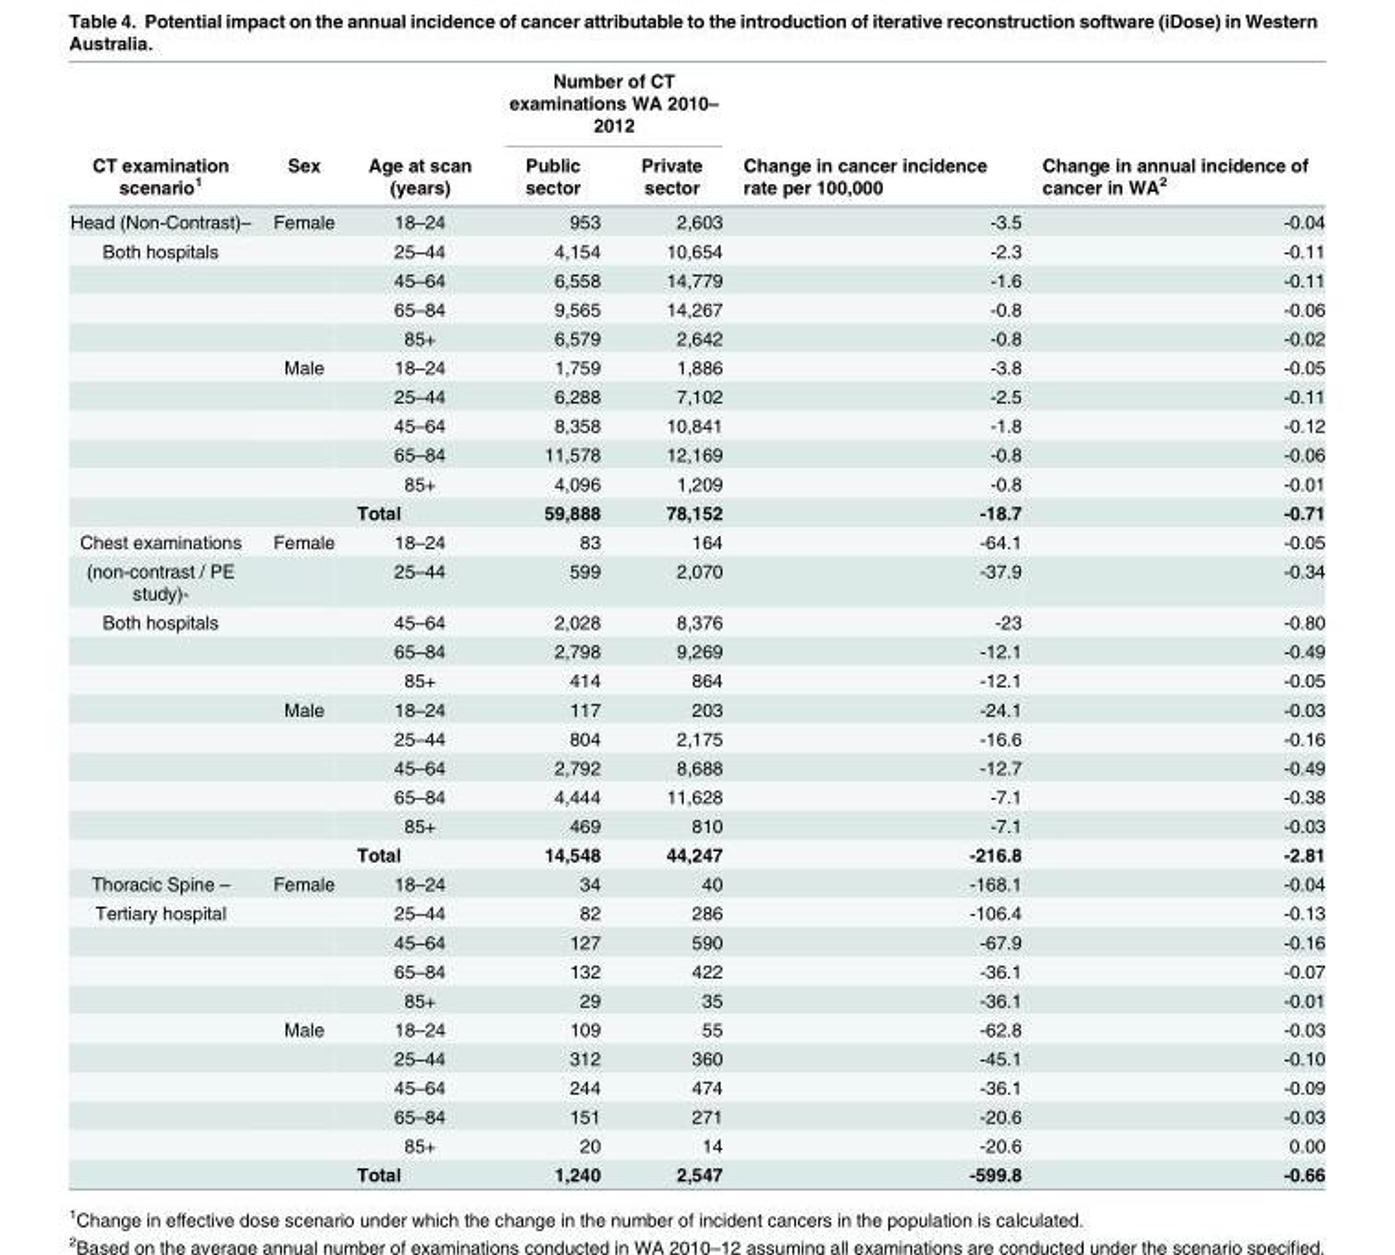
<table><thead><tr><td rowspan="2">CT examination scenario<sup>1</sup></td><td rowspan="2">Sex</td><td rowspan="2">Age at scan (years)</td><td colspan="2">Number of CT examinations WA 2010– 2012</td><td rowspan="2">Change in cancer incidence rate per 100,000</td><td rowspan="2">Change in annual incidence of cancer in WA<sup>2</sup></td></tr><tr><td>Public sector</td><td>Private sector</td></tr></thead><tbody><tr><td>Head (Non-Contrast)–</td><td>Female</td><td>18–24</td><td>953</td><td>2,603</td><td>-3.5</td><td>-0.04</td></tr><tr><td rowspan="10">Both hospitals</td><td></td><td>25–44</td><td>4,154</td><td>10,654</td><td>-2.3</td><td>-0.11</td></tr><tr><td></td><td>45–64</td><td>6,558</td><td>14,779</td><td>-1.6</td><td>-0.11</td></tr><tr><td></td><td>65–84</td><td>9,565</td><td>14,267</td><td>-0.8</td><td>-0.06</td></tr><tr><td></td><td>85+</td><td>6,579</td><td>2,642</td><td>-0.8</td><td>-0.02</td></tr><tr><td>Male</td><td>18–24</td><td>1,759</td><td>1,886</td><td>-3.8</td><td>-0.05</td></tr><tr><td></td><td>25–44</td><td>6,288</td><td>7,102</td><td>-2.5</td><td>-0.11</td></tr><tr><td></td><td>45–64</td><td>8,358</td><td>10,841</td><td>-1.8</td><td>-0.12</td></tr><tr><td></td><td>65–84</td><td>11,578</td><td>12,169</td><td>-0.8</td><td>-0.06</td></tr><tr><td></td><td>85+</td><td>4,096</td><td>1,209</td><td>-0.8</td><td>-0.01</td></tr><tr><td colspan="2">Total</td><td>59,888</td><td>78,152</td><td>-18.7</td><td>-0.71</td></tr><tr><td>Chest examinations</td><td>Female</td><td>18–24</td><td>83</td><td>164</td><td>-64.1</td><td>-0.05</td></tr><tr><td>(non-contrast / PE study)-</td><td></td><td>25–44</td><td>599</td><td>2,070</td><td>-37.9</td><td>-0.34</td></tr><tr><td rowspan="9">Both hospitals</td><td></td><td>45–64</td><td>2,028</td><td>8,376</td><td>-23</td><td>-0.80</td></tr><tr><td></td><td>65–84</td><td>2,798</td><td>9,269</td><td>-12.1</td><td>-0.49</td></tr><tr><td></td><td>85+</td><td>414</td><td>864</td><td>-12.1</td><td>-0.05</td></tr><tr><td>Male</td><td>18–24</td><td>117</td><td>203</td><td>-24.1</td><td>-0.03</td></tr><tr><td></td><td>25–44</td><td>804</td><td>2,175</td><td>-16.6</td><td>-0.16</td></tr><tr><td></td><td>45–64</td><td>2,792</td><td>8,688</td><td>-12.7</td><td>-0.49</td></tr><tr><td></td><td>65–84</td><td>4,444</td><td>11,628</td><td>-7.1</td><td>-0.38</td></tr><tr><td></td><td>85+</td><td>469</td><td>810</td><td>-7.1</td><td>-0.03</td></tr><tr><td colspan="2">Total</td><td>14,548</td><td>44,247</td><td>-216.8</td><td>-2.81</td></tr><tr><td>Thoracic Spine –</td><td>Female</td><td>18–24</td><td>34</td><td>40</td><td>-168.1</td><td>-0.04</td></tr><tr><td rowspan="10">Tertiary hospital</td><td></td><td>25–44</td><td>82</td><td>286</td><td>-106.4</td><td>-0.13</td></tr><tr><td></td><td>45–64</td><td>127</td><td>590</td><td>-67.9</td><td>-0.16</td></tr><tr><td></td><td>65–84</td><td>132</td><td>422</td><td>-36.1</td><td>-0.07</td></tr><tr><td></td><td>85+</td><td>29</td><td>35</td><td>-36.1</td><td>-0.01</td></tr><tr><td>Male</td><td>18–24</td><td>109</td><td>55</td><td>-62.8</td><td>-0.03</td></tr><tr><td></td><td>25–44</td><td>312</td><td>360</td><td>-45.1</td><td>-0.10</td></tr><tr><td></td><td>45–64</td><td>244</td><td>474</td><td>-36.1</td><td>-0.09</td></tr><tr><td></td><td>65–84</td><td>151</td><td>271</td><td>-20.6</td><td>-0.03</td></tr><tr><td></td><td>85+</td><td>20</td><td>14</td><td>-20.6</td><td>0.00</td></tr><tr><td colspan="2">Total</td><td>1,240</td><td>2,547</td><td>-599.8</td><td>-0.66</td></tr></tbody></table>